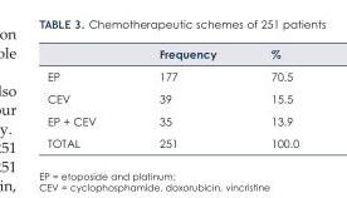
<table><thead><tr><td></td><td>Frequency</td><td>%</td></tr></thead><tbody><tr><td>EP</td><td>177</td><td>70.5</td></tr><tr><td>CEV</td><td>39</td><td>15.5</td></tr><tr><td>EP + CEV</td><td>35</td><td>13.9</td></tr><tr><td>TOTAL</td><td>251</td><td>100.0</td></tr></tbody></table>